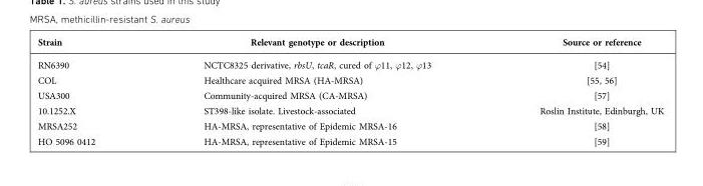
<table><thead><tr><td>Strain</td><td>Relevant genotype or description</td><td>Source or reference</td></tr></thead><tbody><tr><td>RN6390</td><td>NCTC8325 derivative, rbsU, tcaR, cured of ’11, ’12, ’13</td><td>[54]</td></tr><tr><td>COL</td><td>Healthcare acquired MRSA (HA-MRSA)</td><td>[55, 56]</td></tr><tr><td>USA300</td><td>Community-acquired MRSA (CA-MRSA)</td><td>[57]</td></tr><tr><td>10.1252.X</td><td>ST398-like isolate. Livestock-associated</td><td>Roslin Institute, Edinburgh, UK</td></tr><tr><td>MRSA252</td><td>HA-MRSA, representative of Epidemic MRSA-16</td><td>[58]</td></tr><tr><td>HO 5096 0412</td><td>HA-MRSA, representative of Epidemic MRSA-15</td><td>[59]</td></tr></tbody></table>